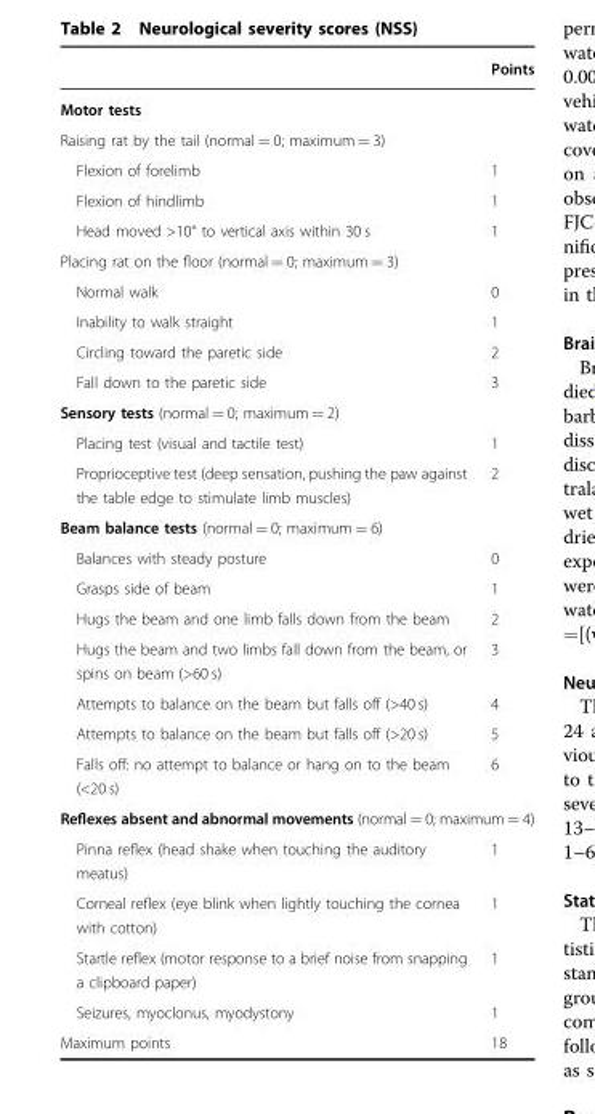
<table><thead><tr><td></td><td>Points</td></tr></thead><tbody><tr><td colspan="2">Motor tests</td></tr><tr><td colspan="2">Raising rat by the tail (normal = 0; maximum = 3)</td></tr><tr><td>Flexion of forelimb</td><td>1</td></tr><tr><td>Flexion of hindlimb</td><td>1</td></tr><tr><td>Head moved &gt;10° to vertical axis within 30 s</td><td>1</td></tr><tr><td colspan="2">Placing rat on the floor (normal = 0; maximum = 3)</td></tr><tr><td>Normal walk</td><td>0</td></tr><tr><td>Inability to walk straight</td><td>1</td></tr><tr><td>Circling toward the paretic side</td><td>2</td></tr><tr><td>Fall down to the paretic side</td><td>3</td></tr><tr><td colspan="2">Sensory tests (normal = 0; maximum = 2)</td></tr><tr><td>Placing test (visual and tactile test)</td><td>1</td></tr><tr><td>Proprioceptive test (deep sensation, pushing the paw against the table edge to stimulate limb muscles)</td><td>2</td></tr><tr><td colspan="2">Beam balance tests (normal = 0; maximum = 6)</td></tr><tr><td>Balances with steady posture</td><td>0</td></tr><tr><td>Grasps side of beam</td><td>1</td></tr><tr><td>Hugs the beam and one limb falls down from the beam</td><td>2</td></tr><tr><td>Hugs the beam and two limbs fall down from the beam, or spins on beam (&gt;60 s)</td><td>3</td></tr><tr><td>Attempts to balance on the beam but falls off (&gt;40 s)</td><td>4</td></tr><tr><td>Attempts to balance on the beam but falls off (&gt;20 s)</td><td>5</td></tr><tr><td>Falls off: no attempt to balance or hang on to the beam (&lt;20 s)</td><td>6</td></tr><tr><td colspan="2">Reflexes absent and abnormal movements (normal = 0; maximum = 4)</td></tr><tr><td>Pinna reflex (head shake when touching the auditory meatus)</td><td>1</td></tr><tr><td>Corneal reflex (eye blink when lightly touching the cornea with cotton)</td><td>1</td></tr><tr><td>Startle reflex (motor response to a brief noise from snapping a clipboard paper)</td><td>1</td></tr><tr><td>Seizures, myoclonus, myodystony</td><td>1</td></tr><tr><td>Maximum points</td><td>18</td></tr></tbody></table>